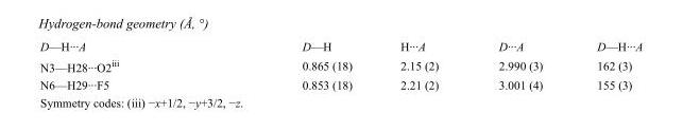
<table><tbody><tr><td>D—H···A</td><td>D—H</td><td>H···A</td><td>D···A</td><td>D—H···A</td></tr><tr><td>N3—H28···O2<sup>iii</sup></td><td>0.865 (18)</td><td>2.15 (2)</td><td>2.990 (3)</td><td>162 (3)</td></tr><tr><td>N6—H29···F5</td><td>0.853 (18)</td><td>2.21 (2)</td><td>3.001 (4)</td><td>155 (3)</td></tr></tbody></table>